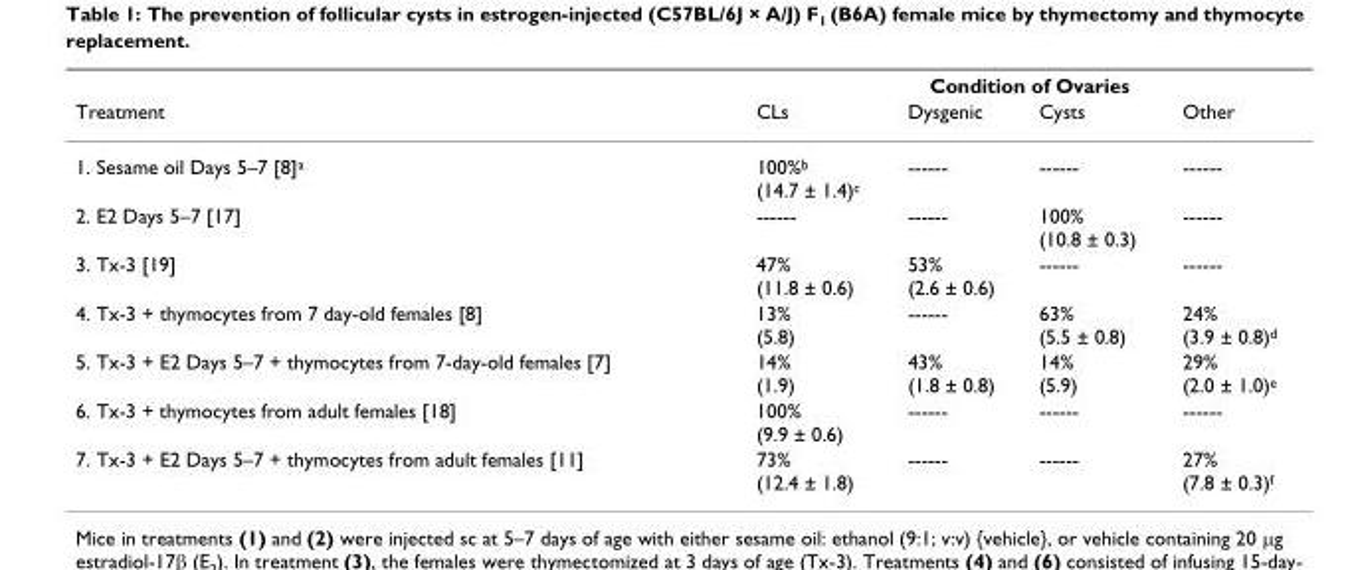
<table><thead><tr><td rowspan="2">Treatment</td><td colspan="4">Condition of Ovaries</td></tr><tr><td>CLs</td><td>Dysgenic</td><td>Cysts</td><td>Other</td></tr></thead><tbody><tr><td>1. Sesame oil Days 5–7 [8]<sup>a</sup></td><td>100%<sup>b</sup> (14.7 ± 1.4)<sup>c</sup></td><td>------</td><td>------</td><td>------</td></tr><tr><td>2. E2 Days 5–7 [17]</td><td>------</td><td>------</td><td>100% (10.8 ± 0.3)</td><td>------</td></tr><tr><td>3. Tx-3 [19]</td><td>47% (11.8 ± 0.6)</td><td>53% (2.6 ± 0.6)</td><td>------</td><td>------</td></tr><tr><td>4. Tx-3 + thymocytes from 7 day-old females [8]</td><td>13% (5.8)</td><td>------</td><td>63% (5.5 ± 0.8)</td><td>24% (3.9 ± 0.8)<sup>d</sup></td></tr><tr><td>5. Tx-3 + E2 Days 5–7 + thymocytes from 7-day-old females [7]</td><td>14% (1.9)</td><td>43% (1.8 ± 0.8)</td><td>14% (5.9)</td><td>29% (2.0 ± 1.0)<sup>e</sup></td></tr><tr><td>6. Tx-3 + thymocytes from adult females [18]</td><td>100% (9.9 ± 0.6)</td><td>------</td><td>------</td><td>------</td></tr><tr><td>7. Tx-3 + E2 Days 5–7 + thymocytes from adult females [11]</td><td>73% (12.4 ± 1.8)</td><td>------</td><td>------</td><td>27% (7.8 ± 0.3)<sup>f</sup></td></tr></tbody></table>